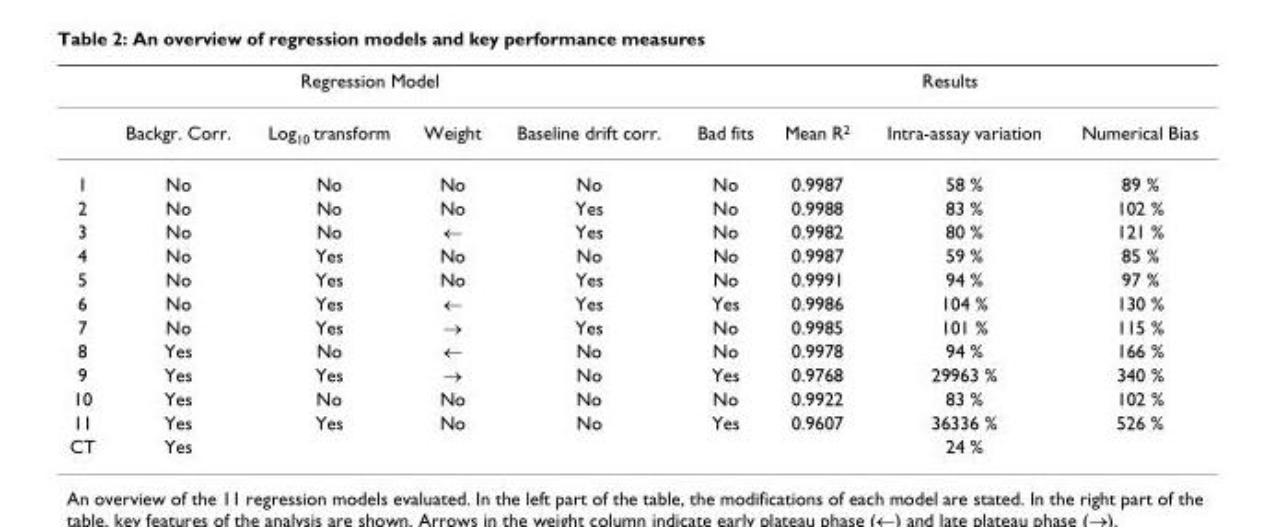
<table><thead><tr><td colspan="5">Regression Model</td><td colspan="4">Results</td></tr><tr><td></td><td>Backgr. Corr.</td><td>Log10 transform</td><td>Weight</td><td>Baseline drift corr.</td><td>Bad fits</td><td>Mean R2</td><td>Intra-assay variation</td><td>Numerical Bias</td></tr></thead><tbody><tr><td>1</td><td>No</td><td>No</td><td>No</td><td>No</td><td>No</td><td>0.9987</td><td>58 %</td><td>89 %</td></tr><tr><td>2</td><td>No</td><td>No</td><td>No</td><td>Yes</td><td>No</td><td>0.9988</td><td>83 %</td><td>102 %</td></tr><tr><td>3</td><td>No</td><td>No</td><td>←</td><td>Yes</td><td>No</td><td>0.9982</td><td>80 %</td><td>121 %</td></tr><tr><td>4</td><td>No</td><td>Yes</td><td>No</td><td>No</td><td>No</td><td>0.9987</td><td>59 %</td><td>85 %</td></tr><tr><td>5</td><td>No</td><td>Yes</td><td>No</td><td>Yes</td><td>No</td><td>0.9991</td><td>94 %</td><td>97 %</td></tr><tr><td>6</td><td>No</td><td>Yes</td><td>←</td><td>Yes</td><td>Yes</td><td>0.9986</td><td>104 %</td><td>130 %</td></tr><tr><td>7</td><td>No</td><td>Yes</td><td>→</td><td>Yes</td><td>No</td><td>0.9985</td><td>101 %</td><td>115 %</td></tr><tr><td>8</td><td>Yes</td><td>No</td><td>←</td><td>No</td><td>No</td><td>0.9978</td><td>94 %</td><td>166 %</td></tr><tr><td>9</td><td>Yes</td><td>Yes</td><td>→</td><td>No</td><td>Yes</td><td>0.9768</td><td>29963 %</td><td>340 %</td></tr><tr><td>10</td><td>Yes</td><td>No</td><td>No</td><td>No</td><td>No</td><td>0.9922</td><td>83 %</td><td>102 %</td></tr><tr><td>11</td><td>Yes</td><td>Yes</td><td>No</td><td>No</td><td>Yes</td><td>0.9607</td><td>36336 %</td><td>526 %</td></tr><tr><td>CT</td><td>Yes</td><td></td><td></td><td></td><td></td><td></td><td>24 %</td><td></td></tr></tbody></table>